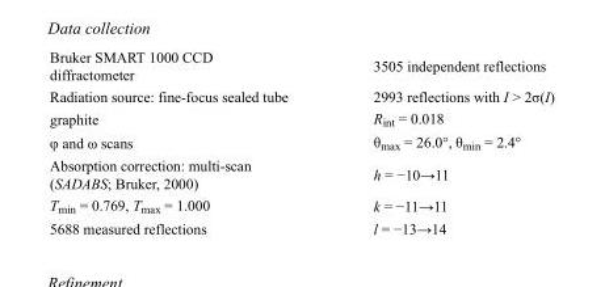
<table><tbody><tr><td>Bruker SMART 1000 CCD diffractometer</td><td>3505 independent reflections</td></tr><tr><td>Radiation source: fine-focus sealed tube</td><td>2993 reflections with I &gt; 2σ(I)</td></tr><tr><td>graphite</td><td>R<sub>int</sub> = 0.018</td></tr><tr><td>φ and ω scans</td><td>θ<sub>max</sub> = 26.0°, θ<sub>min</sub> = 2.4°</td></tr><tr><td>Absorption correction: multi-scan (SADABS; Bruker, 2000)</td><td>h = −10→11</td></tr><tr><td>T<sub>min</sub> = 0.769, T<sub>max</sub> = 1.000</td><td>k = −11→11</td></tr><tr><td>5688 measured reflections</td><td>l = −13→14</td></tr></tbody></table>